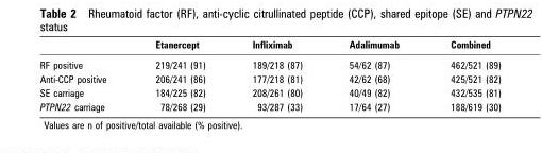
<table><thead><tr><td></td><td>Etanercept</td><td>Infliximab</td><td>Adalimumab</td><td>Combined</td></tr></thead><tbody><tr><td>RF positive</td><td>219/241 (91)</td><td>189/218 (87)</td><td>54/62 (87)</td><td>462/521 (89)</td></tr><tr><td>Anti-CCP positive</td><td>206/241 (86)</td><td>177/218 (81)</td><td>42/62 (68)</td><td>425/521 (82)</td></tr><tr><td>SE carriage</td><td>184/225 (82)</td><td>208/261 (80)</td><td>40/49 (82)</td><td>432/535 (81)</td></tr><tr><td>PTPN22 carriage</td><td>78/268 (29)</td><td>93/287 (33)</td><td>17/64 (27)</td><td>188/619 (30)</td></tr></tbody></table>